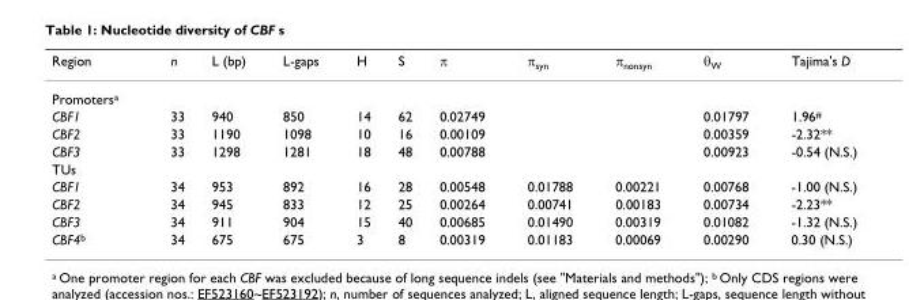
<table><thead><tr><td>Region</td><td>n</td><td>L (bp)</td><td>L-gaps</td><td>H</td><td>S</td><td>π</td><td>π<sub>syn</sub></td><td>π<sub>nonsyn</sub></td><td>θ<sub>W</sub></td><td>Tajima&#x27;s D</td></tr></thead><tbody><tr><td colspan="11">Promoters<sup>a</sup></td></tr><tr><td>CBF1</td><td>33</td><td>940</td><td>850</td><td>14</td><td>62</td><td>0.02749</td><td></td><td></td><td>0.01797</td><td>1.96<sup>#</sup></td></tr><tr><td>CBF2</td><td>33</td><td>1190</td><td>1098</td><td>10</td><td>16</td><td>0.00109</td><td></td><td></td><td>0.00359</td><td>-2.32**</td></tr><tr><td>CBF3</td><td>33</td><td>1298</td><td>1281</td><td>18</td><td>48</td><td>0.00788</td><td></td><td></td><td>0.00923</td><td>-0.54 (N.S.)</td></tr><tr><td colspan="11">TUs</td></tr><tr><td>CBF1</td><td>34</td><td>953</td><td>892</td><td>16</td><td>28</td><td>0.00548</td><td>0.01788</td><td>0.00221</td><td>0.00768</td><td>-1.00 (N.S.)</td></tr><tr><td>CBF2</td><td>34</td><td>945</td><td>833</td><td>12</td><td>25</td><td>0.00264</td><td>0.00741</td><td>0.00183</td><td>0.00734</td><td>-2.23**</td></tr><tr><td>CBF3</td><td>34</td><td>911</td><td>904</td><td>15</td><td>40</td><td>0.00685</td><td>0.01490</td><td>0.00319</td><td>0.01082</td><td>-1.32 (N.S.)</td></tr><tr><td>CBF4<sup>b</sup></td><td>34</td><td>675</td><td>675</td><td>3</td><td>8</td><td>0.00319</td><td>0.01183</td><td>0.00069</td><td>0.00290</td><td>0.30 (N.S.)</td></tr></tbody></table>